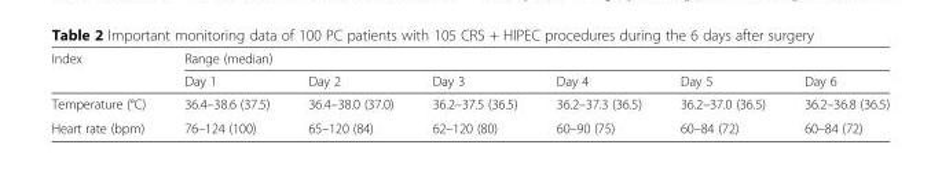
<table><thead><tr><td rowspan="2">Index</td><td colspan="6">Range (median)</td></tr><tr><td>Day 1</td><td>Day 2</td><td>Day 3</td><td>Day 4</td><td>Day 5</td><td>Day 6</td></tr></thead><tbody><tr><td>Temperature (°C)</td><td>36.4–38.6 (37.5)</td><td>36.4–38.0 (37.0)</td><td>36.2–37.5 (36.5)</td><td>36.2–37.3 (36.5)</td><td>36.2–37.0 (36.5)</td><td>36.2–36.8 (36.5)</td></tr><tr><td>Heart rate (bpm)</td><td>76–124 (100)</td><td>65–120 (84)</td><td>62–120 (80)</td><td>60–90 (75)</td><td>60–84 (72)</td><td>60–84 (72)</td></tr></tbody></table>